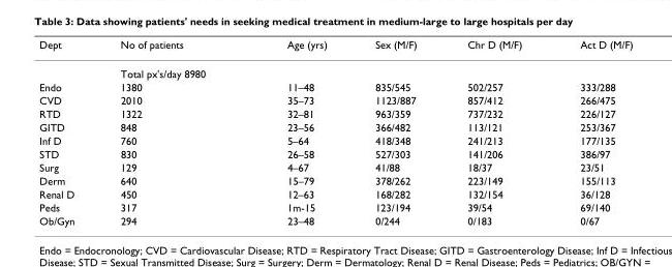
<table><thead><tr><td>Dept</td><td>No of patients</td><td>Age (yrs)</td><td>Sex (M/F)</td><td>Chr D (M/F)</td><td>Act D (M/F)</td></tr></thead><tbody><tr><td></td><td>Total px&#x27;s/day 8980</td><td></td><td></td><td></td><td></td></tr><tr><td>Endo</td><td>1380</td><td>11–48</td><td>835/545</td><td>502/257</td><td>333/288</td></tr><tr><td>CVD</td><td>2010</td><td>35–73</td><td>1123/887</td><td>857/412</td><td>266/475</td></tr><tr><td>RTD</td><td>1322</td><td>32–81</td><td>963/359</td><td>737/232</td><td>226/127</td></tr><tr><td>GITD</td><td>848</td><td>23–56</td><td>366/482</td><td>113/121</td><td>253/367</td></tr><tr><td>Inf D</td><td>760</td><td>5–64</td><td>418/348</td><td>241/213</td><td>177/135</td></tr><tr><td>STD</td><td>830</td><td>26–58</td><td>527/303</td><td>141/206</td><td>386/97</td></tr><tr><td>Surg</td><td>129</td><td>4–67</td><td>41/88</td><td>18/37</td><td>23/51</td></tr><tr><td>Derm</td><td>640</td><td>15–79</td><td>378/262</td><td>223/149</td><td>155/113</td></tr><tr><td>Renal D</td><td>450</td><td>12–63</td><td>168/282</td><td>132/154</td><td>36/128</td></tr><tr><td>Peds</td><td>317</td><td>1m-15</td><td>123/194</td><td>39/54</td><td>69/140</td></tr><tr><td>Ob/Gyn</td><td>294</td><td>23–48</td><td>0/244</td><td>0/183</td><td>0/67</td></tr></tbody></table>